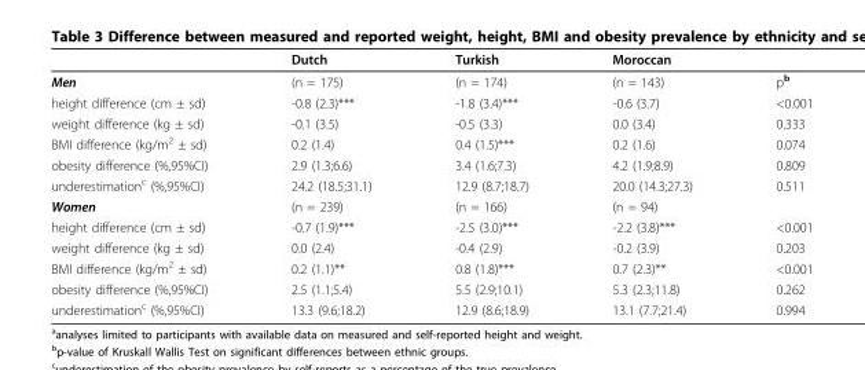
<table><thead><tr><td></td><td>Dutch</td><td>Turkish</td><td>Moroccan</td><td></td></tr></thead><tbody><tr><td>Men</td><td>(n = 175)</td><td>(n = 174)</td><td>(n = 143)</td><td>p<sup>b</sup></td></tr><tr><td>height difference (cm ± sd)</td><td>-0.8 (2.3)***</td><td>-1.8 (3.4)***</td><td>-0.6 (3.7)</td><td>&lt;0.001</td></tr><tr><td>weight difference (kg ± sd)</td><td>-0.1 (3.5)</td><td>-0.5 (3.3)</td><td>0.0 (3.4)</td><td>0.333</td></tr><tr><td>BMI difference (kg/m<sup>2</sup> ± sd)</td><td>0.2 (1.4)</td><td>0.4 (1.5)***</td><td>0.2 (1.6)</td><td>0.074</td></tr><tr><td>obesity difference (%,95%CI)</td><td>2.9 (1.3;6.6)</td><td>3.4 (1.6;7.3)</td><td>4.2 (1.9;8.9)</td><td>0.809</td></tr><tr><td>underestimation<sup>c</sup> (%,95%CI)</td><td>24.2 (18.5;31.1)</td><td>12.9 (8.7;18.7)</td><td>20.0 (14.3;27.3)</td><td>0.511</td></tr><tr><td>Women</td><td>(n = 239)</td><td>(n = 166)</td><td>(n = 94)</td><td></td></tr><tr><td>height difference (cm ± sd)</td><td>-0.7 (1.9)***</td><td>-2.5 (3.0)***</td><td>-2.2 (3.8)***</td><td>&lt;0.001</td></tr><tr><td>weight difference (kg ± sd)</td><td>0.0 (2.4)</td><td>-0.4 (2.9)</td><td>-0.2 (3.9)</td><td>0.203</td></tr><tr><td>BMI difference (kg/m<sup>2</sup> ± sd)</td><td>0.2 (1.1)**</td><td>0.8 (1.8)***</td><td>0.7 (2.3)**</td><td>&lt;0.001</td></tr><tr><td>obesity difference (%,95%CI)</td><td>2.5 (1.1;5.4)</td><td>5.5 (2.9;10.1)</td><td>5.3 (2.3;11.8)</td><td>0.262</td></tr><tr><td>underestimation<sup>c</sup> (%,95%CI)</td><td>13.3 (9.6;18.2)</td><td>12.9 (8.6;18.9)</td><td>13.1 (7.7;21.4)</td><td>0.994</td></tr></tbody></table>